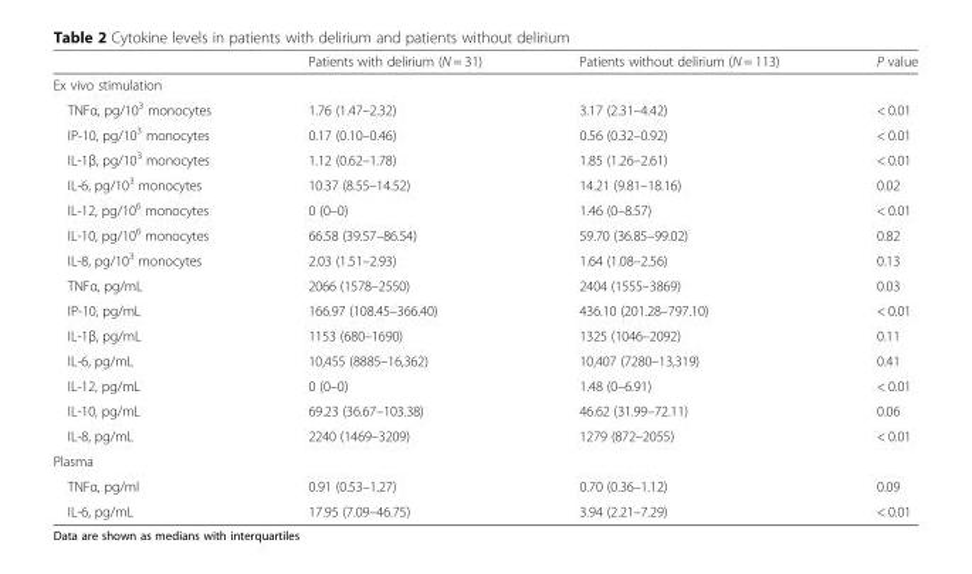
<table><thead><tr><td></td><td>Patients with delirium (N = 31)</td><td>Patients without delirium (N = 113)</td><td>P value</td></tr></thead><tbody><tr><td colspan="4">Ex vivo stimulation</td></tr><tr><td>TNFα, pg/10<sup>3</sup> monocytes</td><td>1.76 (1.47–2.32)</td><td>3.17 (2.31–4.42)</td><td>&lt; 0.01</td></tr><tr><td>IP-10, pg/10<sup>3</sup> monocytes</td><td>0.17 (0.10–0.46)</td><td>0.56 (0.32–0.92)</td><td>&lt; 0.01</td></tr><tr><td>IL-1β, pg/10<sup>3</sup> monocytes</td><td>1.12 (0.62–1.78)</td><td>1.85 (1.26–2.61)</td><td>&lt; 0.01</td></tr><tr><td>IL-6, pg/10<sup>3</sup> monocytes</td><td>10.37 (8.55–14.52)</td><td>14.21 (9.81–18.16)</td><td>0.02</td></tr><tr><td>IL-12, pg/10<sup>6</sup> monocytes</td><td>0 (0–0)</td><td>1.46 (0–8.57)</td><td>&lt; 0.01</td></tr><tr><td>IL-10, pg/10<sup>6</sup> monocytes</td><td>66.58 (39.57–86.54)</td><td>59.70 (36.85–99.02)</td><td>0.82</td></tr><tr><td>IL-8, pg/10<sup>3</sup> monocytes</td><td>2.03 (1.51–2.93)</td><td>1.64 (1.08–2.56)</td><td>0.13</td></tr><tr><td>TNFα, pg/mL</td><td>2066 (1578–2550)</td><td>2404 (1555–3869)</td><td>0.03</td></tr><tr><td>IP-10, pg/mL</td><td>166.97 (108.45–366.40)</td><td>436.10 (201.28–797.10)</td><td>&lt; 0.01</td></tr><tr><td>IL-1β, pg/mL</td><td>1153 (680–1690)</td><td>1325 (1046–2092)</td><td>0.11</td></tr><tr><td>IL-6, pg/mL</td><td>10,455 (8885–16,362)</td><td>10,407 (7280–13,319)</td><td>0.41</td></tr><tr><td>IL-12, pg/mL</td><td>0 (0–0)</td><td>1.48 (0–6.91)</td><td>&lt; 0.01</td></tr><tr><td>IL-10, pg/mL</td><td>69.23 (36.67–103.38)</td><td>46.62 (31.99–72.11)</td><td>0.06</td></tr><tr><td>IL-8, pg/mL</td><td>2240 (1469–3209)</td><td>1279 (872–2055)</td><td>&lt; 0.01</td></tr><tr><td colspan="4">Plasma</td></tr><tr><td>TNFα, pg/ml</td><td>0.91 (0.53–1.27)</td><td>0.70 (0.36–1.12)</td><td>0.09</td></tr><tr><td>IL-6, pg/mL</td><td>17.95 (7.09–46.75)</td><td>3.94 (2.21–7.29)</td><td>&lt; 0.01</td></tr></tbody></table>